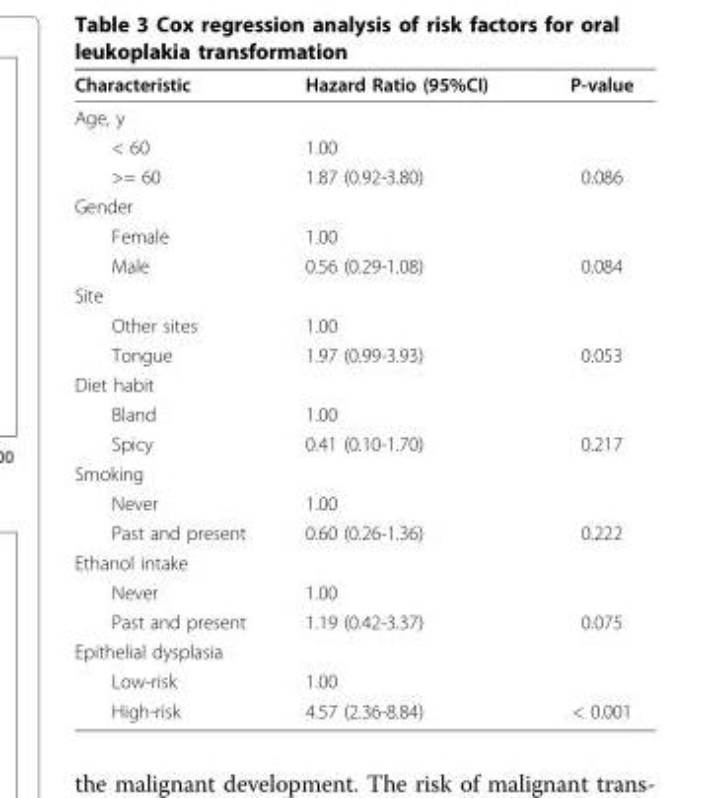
<table><thead><tr><td>Characteristic</td><td>Hazard Ratio (95%CI)</td><td>P-value</td></tr></thead><tbody><tr><td colspan="3">Age, y</td></tr><tr><td>&lt; 60</td><td>1.00</td><td></td></tr><tr><td>&gt;= 60</td><td>1.87 (0.92-3.80)</td><td>0.086</td></tr><tr><td colspan="3">Gender</td></tr><tr><td>Female</td><td>1.00</td><td></td></tr><tr><td>Male</td><td>0.56 (0.29-1.08)</td><td>0.084</td></tr><tr><td colspan="3">Site</td></tr><tr><td>Other sites</td><td>1.00</td><td></td></tr><tr><td>Tongue</td><td>1.97 (0.99-3.93)</td><td>0.053</td></tr><tr><td colspan="3">Diet habit</td></tr><tr><td>Bland</td><td>1.00</td><td></td></tr><tr><td>Spicy</td><td>0.41 (0.10-1.70)</td><td>0.217</td></tr><tr><td colspan="3">Smoking</td></tr><tr><td>Never</td><td>1.00</td><td></td></tr><tr><td>Past and present</td><td>0.60 (0.26-1.36)</td><td>0.222</td></tr><tr><td colspan="3">Ethanol intake</td></tr><tr><td>Never</td><td>1.00</td><td></td></tr><tr><td>Past and present</td><td>1.19 (0.42-3.37)</td><td>0.075</td></tr><tr><td colspan="3">Epithelial dysplasia</td></tr><tr><td>Low-risk</td><td>1.00</td><td></td></tr><tr><td>High-risk</td><td>4.57 (2.36-8.84)</td><td>&lt; 0.001</td></tr></tbody></table>